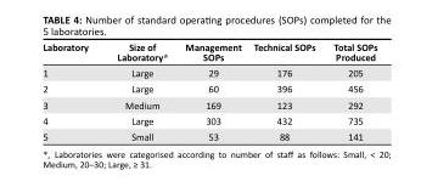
<table><thead><tr><td>Laboratory</td><td>Size of Laboratory*</td><td>Management SOPs</td><td>Technical SOPs</td><td>Total SOPs Produced</td></tr></thead><tbody><tr><td>1</td><td>Large</td><td>29</td><td>176</td><td>205</td></tr><tr><td>2</td><td>Large</td><td>60</td><td>396</td><td>456</td></tr><tr><td>3</td><td>Medium</td><td>169</td><td>123</td><td>292</td></tr><tr><td>4</td><td>Large</td><td>303</td><td>432</td><td>735</td></tr><tr><td>5</td><td>Small</td><td>53</td><td>88</td><td>141</td></tr></tbody></table>